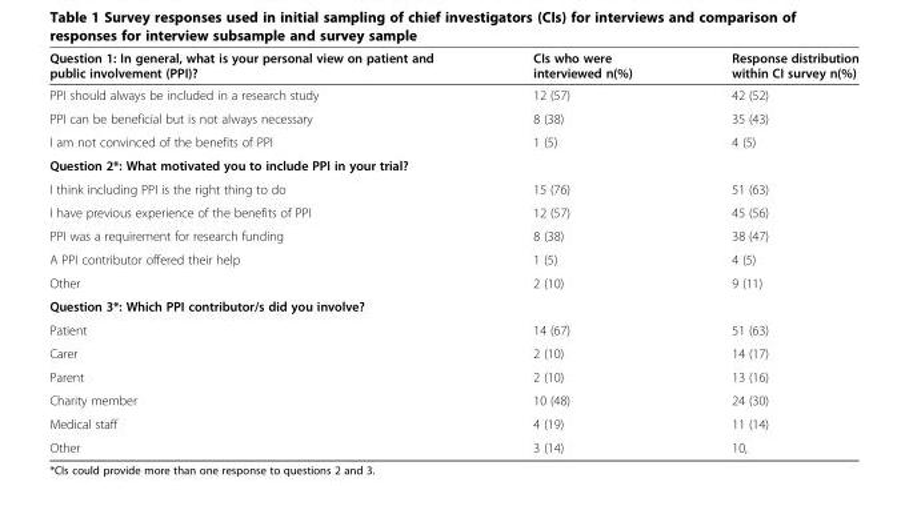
<table><thead><tr><td>Question 1: In general, what is your personal view on patient and public involvement (PPI)?</td><td>CIs who were interviewed n(%)</td><td>Response distribution within CI survey n(%)</td></tr></thead><tbody><tr><td>PPI should always be included in a research study</td><td>12 (57)</td><td>42 (52)</td></tr><tr><td>PPI can be beneficial but is not always necessary</td><td>8 (38)</td><td>35 (43)</td></tr><tr><td>I am not convinced of the benefits of PPI</td><td>1 (5)</td><td>4 (5)</td></tr><tr><td colspan="3">Question 2*: What motivated you to include PPI in your trial?</td></tr><tr><td>I think including PPI is the right thing to do</td><td>15 (76)</td><td>51 (63)</td></tr><tr><td>I have previous experience of the benefits of PPI</td><td>12 (57)</td><td>45 (56)</td></tr><tr><td>PPI was a requirement for research funding</td><td>8 (38)</td><td>38 (47)</td></tr><tr><td>A PPI contributor offered their help</td><td>1 (5)</td><td>4 (5)</td></tr><tr><td>Other</td><td>2 (10)</td><td>9 (11)</td></tr><tr><td colspan="3">Question 3*: Which PPI contributor/s did you involve?</td></tr><tr><td>Patient</td><td>14 (67)</td><td>51 (63)</td></tr><tr><td>Carer</td><td>2 (10)</td><td>14 (17)</td></tr><tr><td>Parent</td><td>2 (10)</td><td>13 (16)</td></tr><tr><td>Charity member</td><td>10 (48)</td><td>24 (30)</td></tr><tr><td>Medical staff</td><td>4 (19)</td><td>11 (14)</td></tr><tr><td>Other</td><td>3 (14)</td><td>10,</td></tr></tbody></table>